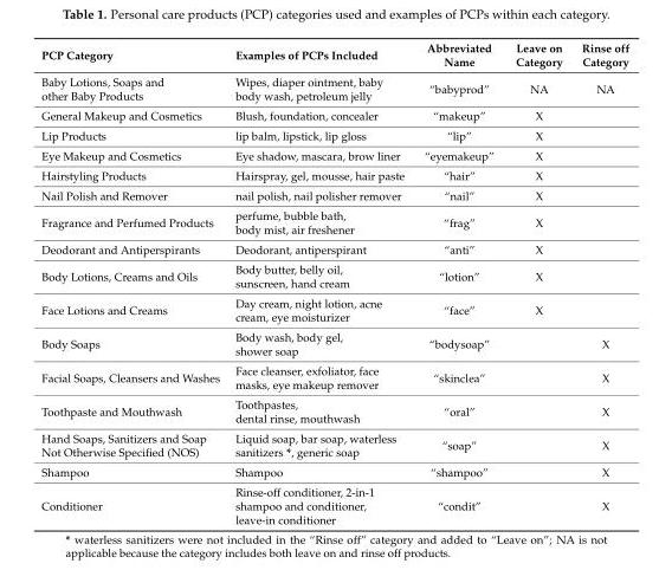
<table><thead><tr><td>PCP Category</td><td>Examples of PCPs Included</td><td>Abbreviated Name</td><td>Leave on Category</td><td>Rinse off Category</td></tr></thead><tbody><tr><td>Baby Lotions, Soaps and other Baby Products</td><td>Wipes, diaper ointment, baby body wash, petroleum jelly</td><td>“babyprod”</td><td>NA</td><td>NA</td></tr><tr><td>General Makeup and Cosmetics</td><td>Blush, foundation, concealer</td><td>“makeup”</td><td>X</td><td></td></tr><tr><td>Lip Products</td><td>lip balm, lipstick, lip gloss</td><td>“lip”</td><td>X</td><td></td></tr><tr><td>Eye Makeup and Cosmetics</td><td>Eye shadow, mascara, brow liner</td><td>“eyemakeup”</td><td>X</td><td></td></tr><tr><td>Hairstyling Products</td><td>Hairspray, gel, mousse, hair paste</td><td>“hair”</td><td>X</td><td></td></tr><tr><td>Nail Polish and Remover</td><td>nail polish, nail polisher remover</td><td>“nail”</td><td>X</td><td></td></tr><tr><td>Fragrance and Perfumed Products</td><td>perfume, bubble bath, body mist, air freshener</td><td>“frag”</td><td>X</td><td></td></tr><tr><td>Deodorant and Antiperspirants</td><td>Deodorant, antiperspirant</td><td>“anti”</td><td>X</td><td></td></tr><tr><td>Body Lotions, Creams and Oils</td><td>Body butter, belly oil, sunscreen, hand cream</td><td>“lotion”</td><td>X</td><td></td></tr><tr><td>Face Lotions and Creams</td><td>Day cream, night lotion, acne cream, eye moisturizer</td><td>“face”</td><td>X</td><td></td></tr><tr><td>Body Soaps</td><td>Body wash, body gel, shower soap</td><td>“bodysoap”</td><td></td><td>X</td></tr><tr><td>Facial Soaps, Cleansers and Washes</td><td>Face cleanser, exfoliator, face masks, eye makeup remover</td><td>“skinclea”</td><td></td><td>X</td></tr><tr><td>Toothpaste and Mouthwash</td><td>Toothpastes, dental rinse, mouthwash</td><td>“oral”</td><td></td><td>X</td></tr><tr><td>Hand Soaps, Sanitizers and Soap Not Otherwise Specified (NOS)</td><td>Liquid soap, bar soap, waterless sanitizers *, generic soap</td><td>“soap”</td><td></td><td>X</td></tr><tr><td>Shampoo</td><td>Shampoo</td><td>“shampoo”</td><td></td><td>X</td></tr><tr><td>Conditioner</td><td>Rinse-off conditioner, 2-in-1 shampoo and conditioner, leave-in conditioner</td><td>“condit”</td><td></td><td>X</td></tr></tbody></table>